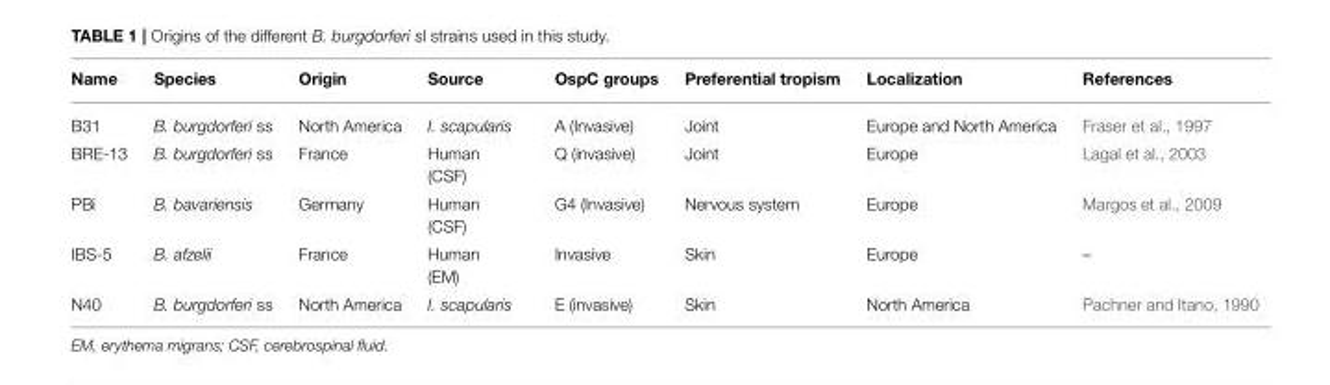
<table><thead><tr><td>Name</td><td>Species</td><td>Origin</td><td>Source</td><td>OspC groups</td><td>Preferential tropism</td><td>Localization</td><td>References</td></tr></thead><tbody><tr><td>B31</td><td>B. burgdorferi ss</td><td>North America</td><td>I. scapularis</td><td>A (Invasive)</td><td>Joint</td><td>Europe and North America</td><td>Fraser et al., 1997</td></tr><tr><td>BRE-13</td><td>B. burgdorferi ss</td><td>France</td><td>Human (CSF)</td><td>Q (invasive)</td><td>Joint</td><td>Europe</td><td>Lagal et al., 2003</td></tr><tr><td>PBi</td><td>B. bavariensis</td><td>Germany</td><td>Human (CSF)</td><td>G4 (Invasive)</td><td>Nervous system</td><td>Europe</td><td>Margos et al., 2009</td></tr><tr><td>IBS-5</td><td>B. afzelii</td><td>France</td><td>Human (EM)</td><td>Invasive</td><td>Skin</td><td>Europe</td><td>–</td></tr><tr><td>N40</td><td>B. burgdorferi ss</td><td>North America</td><td>I. scapularis</td><td>E (invasive)</td><td>Skin</td><td>North America</td><td>Pachner and Itano, 1990</td></tr></tbody></table>